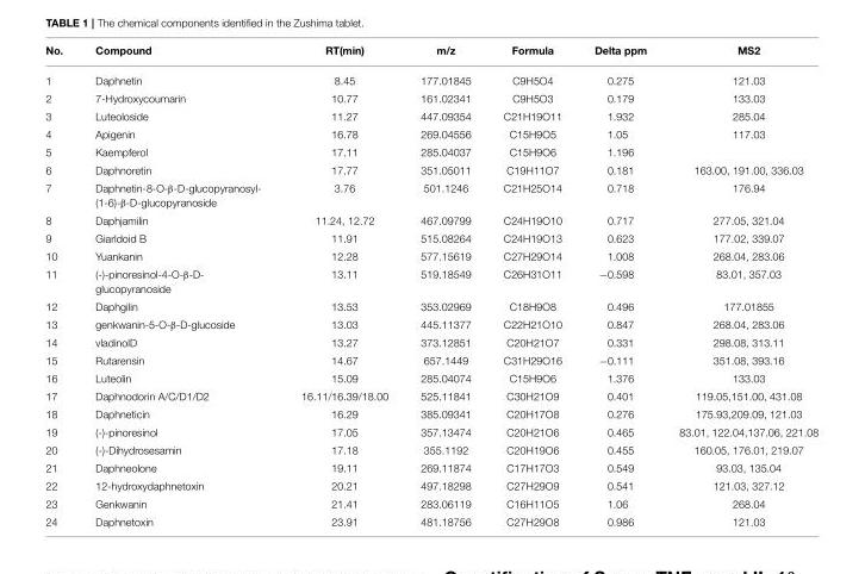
<table><thead><tr><td>No.</td><td>Compound</td><td>RT(min)</td><td>m/z</td><td>Formula</td><td>Delta ppm</td><td>MS2</td></tr></thead><tbody><tr><td>1</td><td>Daphnetin</td><td>8.45</td><td>177.01845</td><td>C9H5O4</td><td>0.275</td><td>121.03</td></tr><tr><td>2</td><td>7-Hydroxycoumarin</td><td>10.77</td><td>161.02341</td><td>C9H5O3</td><td>0.179</td><td>133.03</td></tr><tr><td>3</td><td>Luteoloside</td><td>11.27</td><td>447.09354</td><td>C21H19O11</td><td>1.932</td><td>285.04</td></tr><tr><td>4</td><td>Apigenin</td><td>16.78</td><td>269.04556</td><td>C15H9O5</td><td>1.05</td><td>117.03</td></tr><tr><td>5</td><td>Kaempferol</td><td>17.11</td><td>285.04037</td><td>C15H9O6</td><td>1.196</td><td></td></tr><tr><td>6</td><td>Daphnoretin</td><td>17.77</td><td>351.05011</td><td>C19H11O7</td><td>0.181</td><td>163.00, 191.00, 336.03</td></tr><tr><td>7</td><td>Daphnetin-8-O-β-D-glucopyranosyl- (1-6)-β-D-glucopyranoside</td><td>3.76</td><td>501.1246</td><td>C21H25O14</td><td>0.718</td><td>176.94</td></tr><tr><td>8</td><td>Daphjamilin</td><td>11.24, 12.72</td><td>467.09799</td><td>C24H19O10</td><td>0.717</td><td>277.05, 321.04</td></tr><tr><td>9</td><td>Giarldoid B</td><td>11.91</td><td>515.08264</td><td>C24H19O13</td><td>0.623</td><td>177.02, 339.07</td></tr><tr><td>10</td><td>Yuankanin</td><td>12.28</td><td>577.15619</td><td>C27H29O14</td><td>1.008</td><td>268.04, 283.06</td></tr><tr><td>11</td><td>(-)-pinoresinol-4-O-β-D- glucopyranoside</td><td>13.11</td><td>519.18549</td><td>C26H31O11</td><td>−0.598</td><td>83.01, 357.03</td></tr><tr><td>12</td><td>Daphgilin</td><td>13.53</td><td>353.02969</td><td>C18H9O8</td><td>0.496</td><td>177.01855</td></tr><tr><td>13</td><td>genkwanin-5-O-β-D-glucoside</td><td>13.03</td><td>445.11377</td><td>C22H21O10</td><td>0.847</td><td>268.04, 283.06</td></tr><tr><td>14</td><td>vladinolD</td><td>13.27</td><td>373.12851</td><td>C20H21O7</td><td>0.331</td><td>298.08, 313.11</td></tr><tr><td>15</td><td>Rutarensin</td><td>14.67</td><td>657.1449</td><td>C31H29O16</td><td>−0.111</td><td>351.08, 393.16</td></tr><tr><td>16</td><td>Luteolin</td><td>15.09</td><td>285.04074</td><td>C15H9O6</td><td>1.376</td><td>133.03</td></tr><tr><td>17</td><td>Daphnodorin A/C/D1/D2</td><td>16.11/16.39/18.00</td><td>525.11841</td><td>C30H21O9</td><td>0.401</td><td>119.05,151.00, 431.08</td></tr><tr><td>18</td><td>Daphneticin</td><td>16.29</td><td>385.09341</td><td>C20H17O8</td><td>0.276</td><td>175.93,209.09, 121.03</td></tr><tr><td>19</td><td>(-)-pinoresinol</td><td>17.05</td><td>357.13474</td><td>C20H21O6</td><td>0.465</td><td>83.01, 122.04,137.06, 221.08</td></tr><tr><td>20</td><td>(-)-Dihydrosesamin</td><td>17.18</td><td>355.1192</td><td>C20H19O6</td><td>0.455</td><td>160.05, 176.01, 219.07</td></tr><tr><td>21</td><td>Daphneolone</td><td>19.11</td><td>269.11874</td><td>C17H17O3</td><td>0.549</td><td>93.03, 135.04</td></tr><tr><td>22</td><td>12-hydroxydaphnetoxin</td><td>20.21</td><td>497.18298</td><td>C27H29O9</td><td>0.541</td><td>121.03, 327.12</td></tr><tr><td>23</td><td>Genkwanin</td><td>21.41</td><td>283.06119</td><td>C16H11O5</td><td>1.06</td><td>268.04</td></tr><tr><td>24</td><td>Daphnetoxin</td><td>23.91</td><td>481.18756</td><td>C27H29O8</td><td>0.986</td><td>121.03</td></tr></tbody></table>